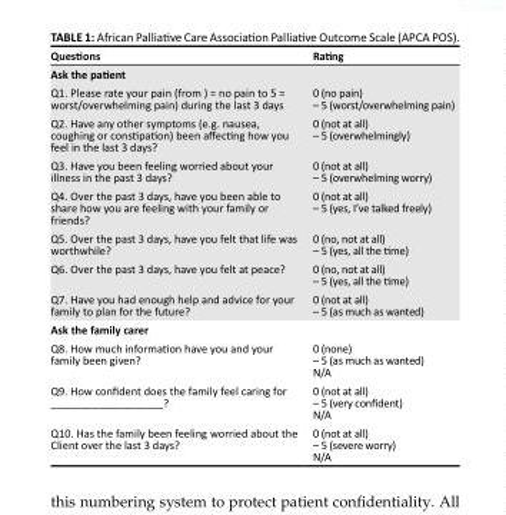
<table><thead><tr><td>Questions</td><td>Rating</td></tr></thead><tbody><tr><td colspan="2">Ask the patient</td></tr><tr><td>Q1. Please rate your pain (from ) = no pain to 5 = worst/overwhelming pain) during the last 3 days</td><td>0 (no pain) – 5 (worst/overwhelming pain)</td></tr><tr><td>Q2. Have any other symptoms (e.g. nausea, coughing or constipation) been affecting how you feel in the last 3 days?</td><td>0 (not at all) – 5 (overwhelmingly)</td></tr><tr><td>Q3. Have you been feeling worried about your illness in the past 3 days?</td><td>0 (not at all) – 5 (overwhelming worry)</td></tr><tr><td>Q4. Over the past 3 days, have you been able to share how you are feeling with your family or friends?</td><td>0 (not at all) – 5 (yes, I’ve talked freely)</td></tr><tr><td>Q5. Over the past 3 days, have you felt that life was worthwhile?</td><td>0 (no, not at all) – 5 (yes, all the time)</td></tr><tr><td>Q6. Over the past 3 days, have you felt at peace?</td><td>0 (no, not at all) – 5 (yes, all the time)</td></tr><tr><td>Q7. Have you had enough help and advice for your family to plan for the future?</td><td>0 (not at all) – 5 (as much as wanted)</td></tr><tr><td colspan="2">Ask the family carer</td></tr><tr><td>Q8. How much information have you and your family been given?</td><td>0 (none) – 5 (as much as wanted) N/A</td></tr><tr><td>Q9. How confident does the family feel caring for ___________________?</td><td>0 (not at all) – 5 (very confident) N/A</td></tr><tr><td>Q10. Has the family been feeling worried about the Client over the last 3 days?</td><td>0 (not at all) – 5 (severe worry) N/A</td></tr></tbody></table>